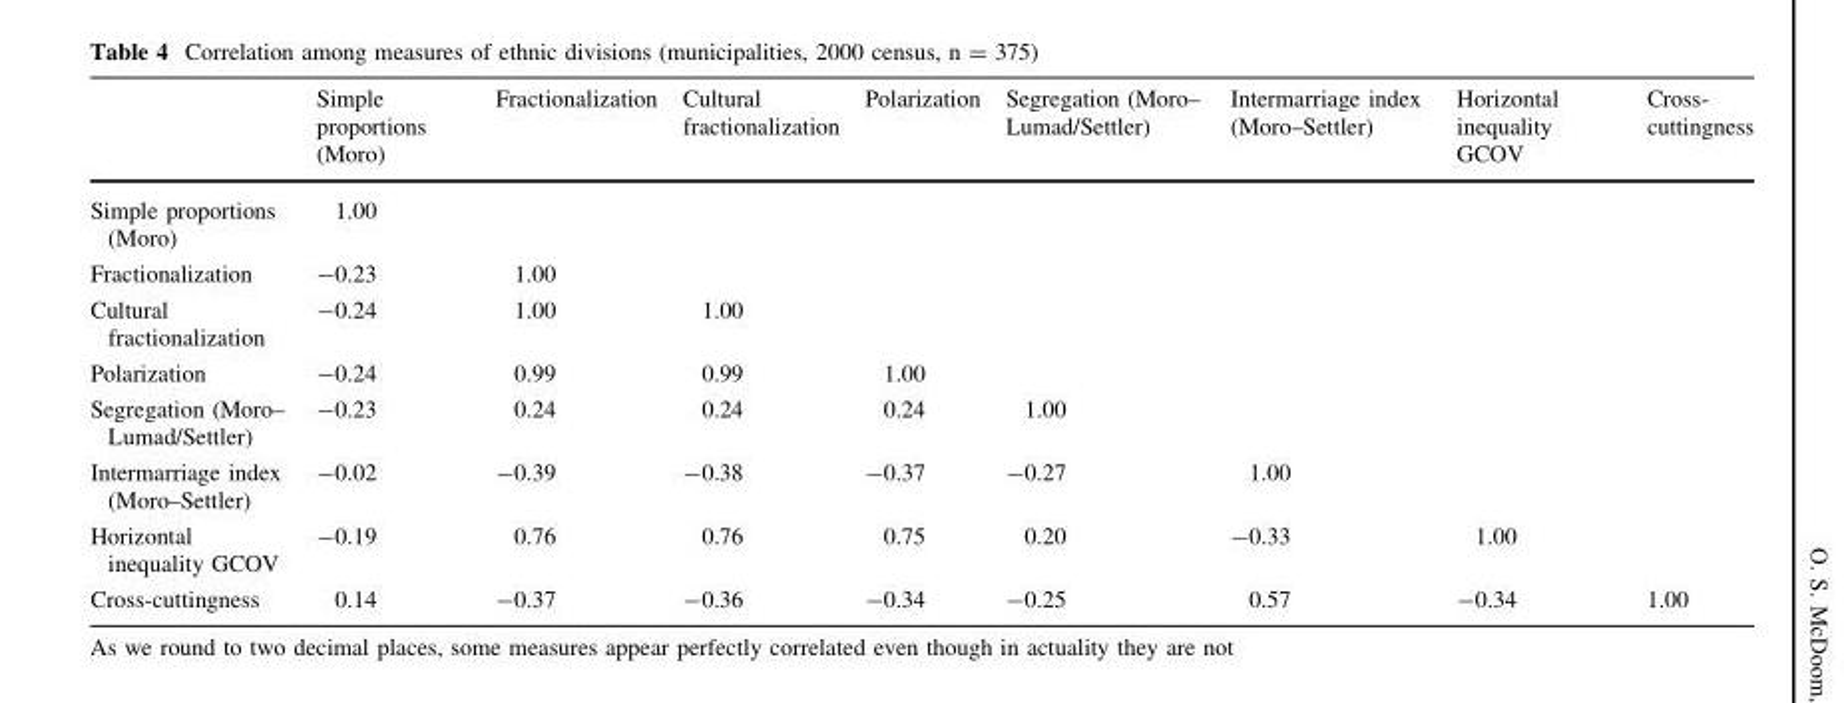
<table><thead><tr><td></td><td>Simple proportions (Moro)</td><td>Fractionalization</td><td>Cultural fractionalization</td><td>Polarization</td><td>Segregation (Moro– Lumad/Settler)</td><td>Intermarriage index (Moro–Settler)</td><td>Horizontal inequality GCOV</td><td>Cross- cuttingness</td></tr></thead><tbody><tr><td>Simple proportions (Moro)</td><td>1.00</td><td></td><td></td><td></td><td></td><td></td><td></td><td></td></tr><tr><td>Fractionalization</td><td>-0.23</td><td>1.00</td><td></td><td></td><td></td><td></td><td></td><td></td></tr><tr><td>Cultural fractionalization</td><td>-0.24</td><td>1.00</td><td>1.00</td><td></td><td></td><td></td><td></td><td></td></tr><tr><td>Polarization</td><td>-0.24</td><td>0.99</td><td>0.99</td><td>1.00</td><td></td><td></td><td></td><td></td></tr><tr><td>Segregation (Moro– Lumad/Settler)</td><td>-0.23</td><td>0.24</td><td>0.24</td><td>0.24</td><td>1.00</td><td></td><td></td><td></td></tr><tr><td>Intermarriage index (Moro–Settler)</td><td>-0.02</td><td>-0.39</td><td>-0.38</td><td>-0.37</td><td>-0.27</td><td>1.00</td><td></td><td></td></tr><tr><td>Horizontal inequality GCOV</td><td>-0.19</td><td>0.76</td><td>0.76</td><td>0.75</td><td>0.20</td><td>-0.33</td><td>1.00</td><td></td></tr><tr><td>Cross-cuttingness</td><td>0.14</td><td>-0.37</td><td>-0.36</td><td>-0.34</td><td>-0.25</td><td>0.57</td><td>-0.34</td><td>1.00</td></tr></tbody></table>